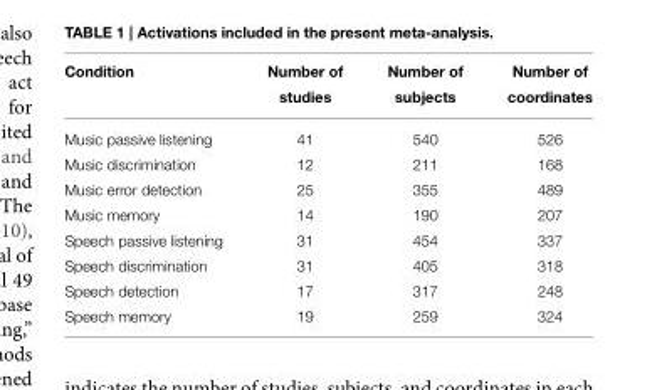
<table><thead><tr><td>Condition</td><td>Number of studies</td><td>Number of subjects</td><td>Number of coordinates</td></tr></thead><tbody><tr><td>Music passive listening</td><td>41</td><td>540</td><td>526</td></tr><tr><td>Music discrimination</td><td>12</td><td>211</td><td>168</td></tr><tr><td>Music error detection</td><td>25</td><td>355</td><td>489</td></tr><tr><td>Music memory</td><td>14</td><td>190</td><td>207</td></tr><tr><td>Speech passive listening</td><td>31</td><td>454</td><td>337</td></tr><tr><td>Speech discrimination</td><td>31</td><td>405</td><td>318</td></tr><tr><td>Speech detection</td><td>17</td><td>317</td><td>248</td></tr><tr><td>Speech memory</td><td>19</td><td>259</td><td>324</td></tr></tbody></table>